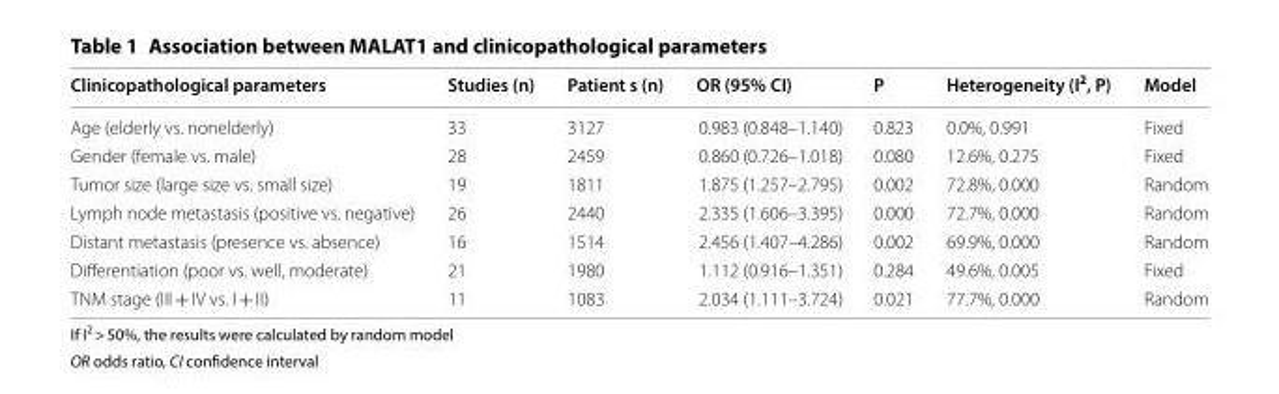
<table><thead><tr><td>Clinicopathological parameters</td><td>Studies (n)</td><td>Patient s (n)</td><td>OR (95% CI)</td><td>P</td><td>Heterogeneity (I<sup>2</sup>, P)</td><td>Model</td></tr></thead><tbody><tr><td>Age (elderly vs. nonelderly)</td><td>33</td><td>3127</td><td>0.983 (0.848–1.140)</td><td>0.823</td><td>0.0%, 0.991</td><td>Fixed</td></tr><tr><td>Gender (female vs. male)</td><td>28</td><td>2459</td><td>0.860 (0.726–1.018)</td><td>0.080</td><td>12.6%, 0.275</td><td>Fixed</td></tr><tr><td>Tumor size (large size vs. small size)</td><td>19</td><td>1811</td><td>1.875 (1.257–2.795)</td><td>0.002</td><td>72.8%, 0.000</td><td>Random</td></tr><tr><td>Lymph node metastasis (positive vs. negative)</td><td>26</td><td>2440</td><td>2.335 (1.606–3.395)</td><td>0.000</td><td>72.7%, 0.000</td><td>Random</td></tr><tr><td>Distant metastasis (presence vs. absence)</td><td>16</td><td>1514</td><td>2.456 (1.407–4.286)</td><td>0.002</td><td>69.9%, 0.000</td><td>Random</td></tr><tr><td>Differentiation (poor vs. well, moderate)</td><td>21</td><td>1980</td><td>1.112 (0.916–1.351)</td><td>0.284</td><td>49.6%, 0.005</td><td>Fixed</td></tr><tr><td>TNM stage (III + IV vs. I + II)</td><td>11</td><td>1083</td><td>2.034 (1.111–3.724)</td><td>0.021</td><td>77.7%, 0.000</td><td>Random</td></tr></tbody></table>